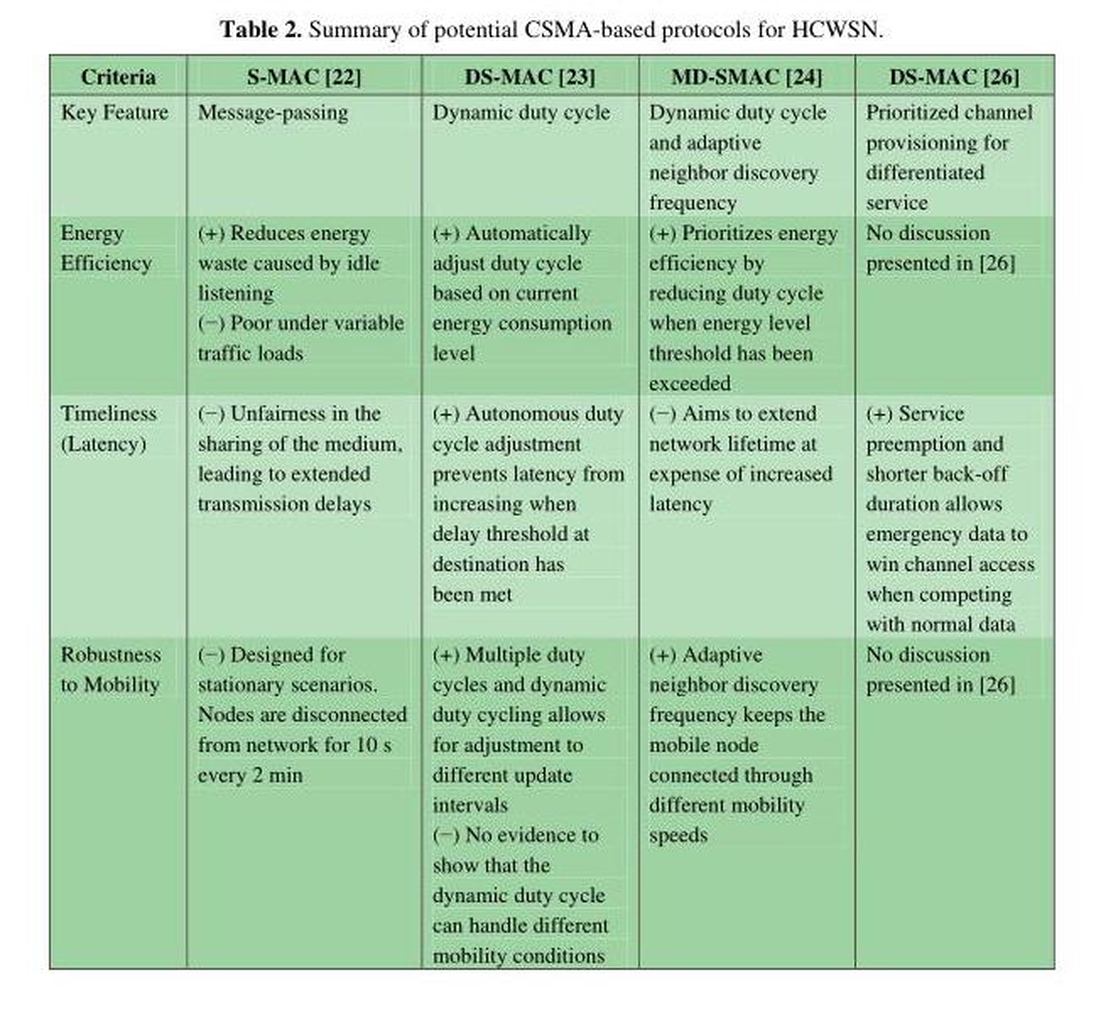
<table><thead><tr><td>Criteria</td><td>S-MAC [22]</td><td>DS-MAC [23]</td><td>MD-SMAC [24]</td><td>DS-MAC [26]</td></tr></thead><tbody><tr><td>Key Feature</td><td>Message-passing</td><td>Dynamic duty cycle</td><td>Dynamic duty cycle and adaptive neighbor discovery frequency</td><td>Prioritized channel provisioning for differentiated service</td></tr><tr><td>Energy Efficiency</td><td>(+) Reduces energy waste caused by idle listening (−) Poor under variable traffic loads</td><td>(+) Automatically adjust duty cycle based on current energy consumption level</td><td>(+) Prioritizes energy efficiency by reducing duty cycle when energy level threshold has been exceeded</td><td>No discussion presented in [26]</td></tr><tr><td>Timeliness (Latency)</td><td>(−) Unfairness in the sharing of the medium, leading to extended transmission delays</td><td>(+) Autonomous duty cycle adjustment prevents latency from increasing when delay threshold at destination has been met</td><td>(−) Aims to extend network lifetime at expense of increased latency</td><td>(+) Service preemption and shorter back-off duration allows emergency data to win channel access when competing with normal data</td></tr><tr><td>Robustness to Mobility</td><td>(−) Designed for stationary scenarios. Nodes are disconnected from network for 10 s every 2 min</td><td>(+) Multiple duty cycles and dynamic duty cycling allows for adjustment to different update intervals (−) No evidence to show that the dynamic duty cycle can handle different mobility conditions</td><td>(+) Adaptive neighbor discovery frequency keeps the mobile node connected through different mobility speeds</td><td>No discussion presented in [26]</td></tr></tbody></table>